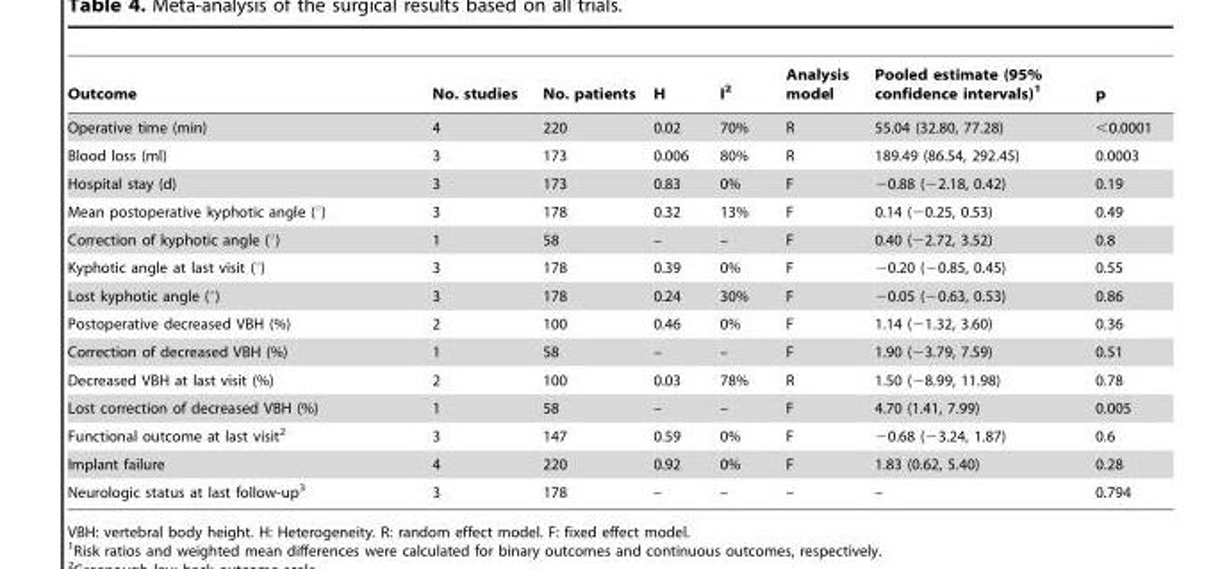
<table><thead><tr><td>Outcome</td><td>No. studies</td><td>No. patients</td><td>H</td><td>I<sup>2</sup></td><td>Analysis model</td><td>Pooled estimate (95% confidence intervals)<sup>1</sup></td><td>p</td></tr></thead><tbody><tr><td>Operative time (min)</td><td>4</td><td>220</td><td>0.02</td><td>70%</td><td>R</td><td>55.04 (32.80, 77.28)</td><td>&lt;0.0001</td></tr><tr><td>Blood loss (ml)</td><td>3</td><td>173</td><td>0.006</td><td>80%</td><td>R</td><td>189.49 (86.54, 292.45)</td><td>0.0003</td></tr><tr><td>Hospital stay (d)</td><td>3</td><td>173</td><td>0.83</td><td>0%</td><td>F</td><td>−0.88 (−2.18, 0.42)</td><td>0.19</td></tr><tr><td>Mean postoperative kyphotic angle (°)</td><td>3</td><td>178</td><td>0.32</td><td>13%</td><td>F</td><td>0.14 (−0.25, 0.53)</td><td>0.49</td></tr><tr><td>Correction of kyphotic angle (°)</td><td>1</td><td>58</td><td>–</td><td>–</td><td>F</td><td>0.40 (−2.72, 3.52)</td><td>0.8</td></tr><tr><td>Kyphotic angle at last visit (°)</td><td>3</td><td>178</td><td>0.39</td><td>0%</td><td>F</td><td>−0.20 (−0.85, 0.45)</td><td>0.55</td></tr><tr><td>Lost kyphotic angle (°)</td><td>3</td><td>178</td><td>0.24</td><td>30%</td><td>F</td><td>−0.05 (−0.63, 0.53)</td><td>0.86</td></tr><tr><td>Postoperative decreased VBH (%)</td><td>2</td><td>100</td><td>0.46</td><td>0%</td><td>F</td><td>1.14 (−1.32, 3.60)</td><td>0.36</td></tr><tr><td>Correction of decreased VBH (%)</td><td>1</td><td>58</td><td>–</td><td>–</td><td>F</td><td>1.90 (−3.79, 7.59)</td><td>0.51</td></tr><tr><td>Decreased VBH at last visit (%)</td><td>2</td><td>100</td><td>0.03</td><td>78%</td><td>R</td><td>1.50 (−8.99, 11.98)</td><td>0.78</td></tr><tr><td>Lost correction of decreased VBH (%)</td><td>1</td><td>58</td><td>–</td><td>–</td><td>F</td><td>4.70 (1.41, 7.99)</td><td>0.005</td></tr><tr><td>Functional outcome at last visit<sup>2</sup></td><td>3</td><td>147</td><td>0.59</td><td>0%</td><td>F</td><td>−0.68 (−3.24, 1.87)</td><td>0.6</td></tr><tr><td>Implant failure</td><td>4</td><td>220</td><td>0.92</td><td>0%</td><td>F</td><td>1.83 (0.62, 5.40)</td><td>0.28</td></tr><tr><td>Neurologic status at last follow-up<sup>3</sup></td><td>3</td><td>178</td><td>–</td><td>–</td><td>–</td><td>–</td><td>0.794</td></tr></tbody></table>